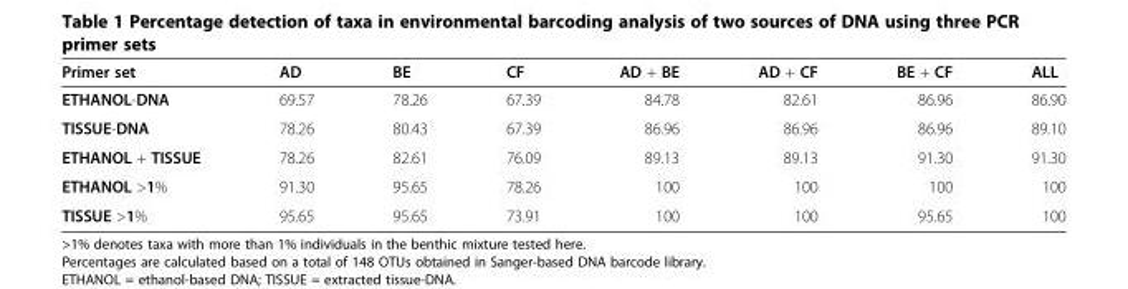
<table><thead><tr><td>Primer set</td><td>AD</td><td>BE</td><td>CF</td><td>AD + BE</td><td>AD + CF</td><td>BE + CF</td><td>ALL</td></tr></thead><tbody><tr><td>ETHANOL-DNA</td><td>69.57</td><td>78.26</td><td>67.39</td><td>84.78</td><td>82.61</td><td>86.96</td><td>86.90</td></tr><tr><td>TISSUE-DNA</td><td>78.26</td><td>80.43</td><td>67.39</td><td>86.96</td><td>86.96</td><td>86.96</td><td>89.10</td></tr><tr><td>ETHANOL + TISSUE</td><td>78.26</td><td>82.61</td><td>76.09</td><td>89.13</td><td>89.13</td><td>91.30</td><td>91.30</td></tr><tr><td>ETHANOL &gt;1%</td><td>91.30</td><td>95.65</td><td>78.26</td><td>100</td><td>100</td><td>100</td><td>100</td></tr><tr><td>TISSUE &gt;1%</td><td>95.65</td><td>95.65</td><td>73.91</td><td>100</td><td>100</td><td>95.65</td><td>100</td></tr></tbody></table>